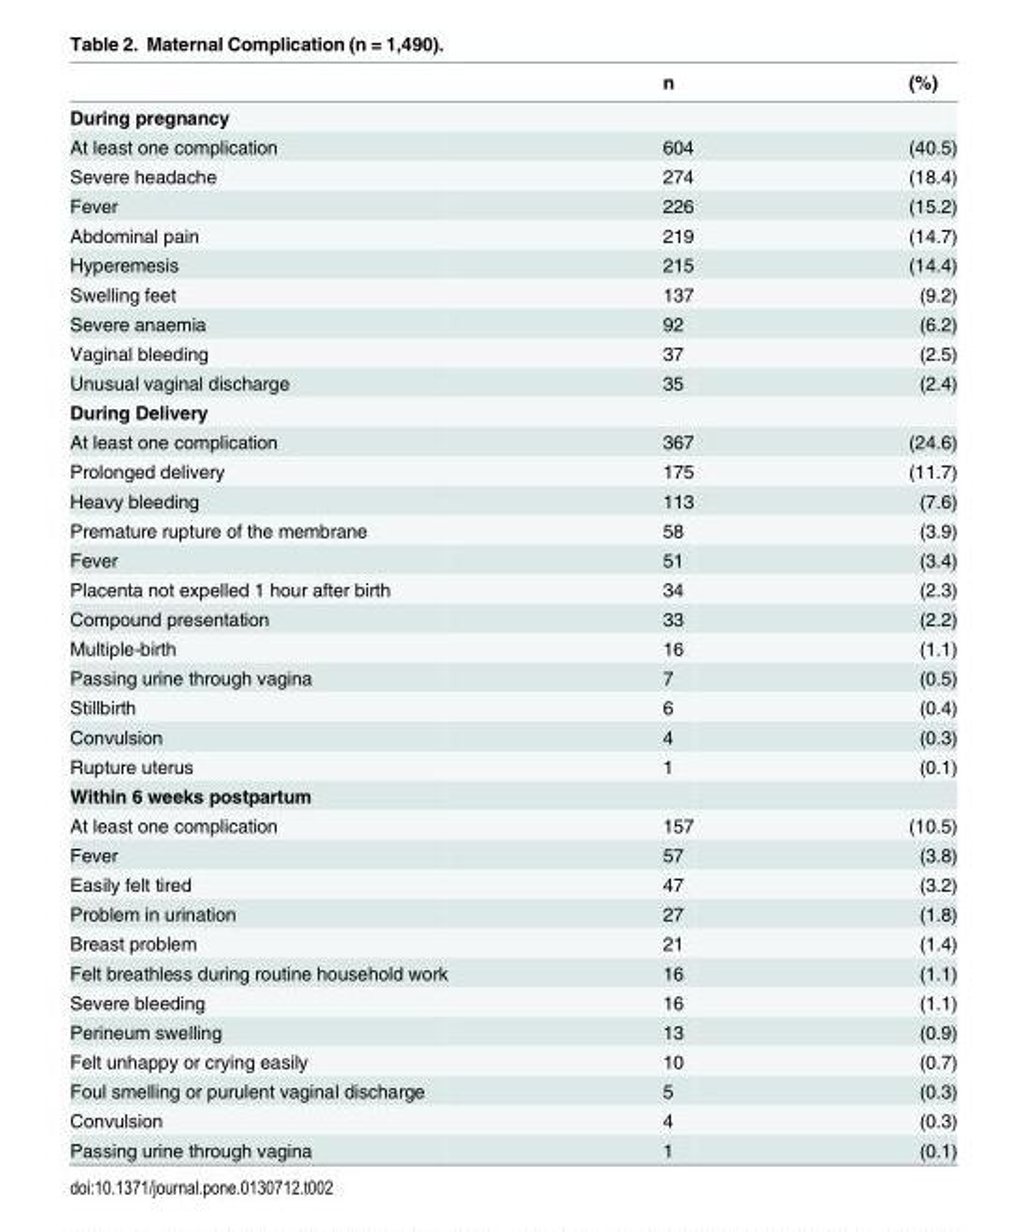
<table><thead><tr><td></td><td>n</td><td>(%)</td></tr></thead><tbody><tr><td colspan="3">During pregnancy</td></tr><tr><td>At least one complication</td><td>604</td><td>(40.5)</td></tr><tr><td>Severe headache</td><td>274</td><td>(18.4)</td></tr><tr><td>Fever</td><td>226</td><td>(15.2)</td></tr><tr><td>Abdominal pain</td><td>219</td><td>(14.7)</td></tr><tr><td>Hyperemesis</td><td>215</td><td>(14.4)</td></tr><tr><td>Swelling feet</td><td>137</td><td>(9.2)</td></tr><tr><td>Severe anaemia</td><td>92</td><td>(6.2)</td></tr><tr><td>Vaginal bleeding</td><td>37</td><td>(2.5)</td></tr><tr><td>Unusual vaginal discharge</td><td>35</td><td>(2.4)</td></tr><tr><td colspan="3">During Delivery</td></tr><tr><td>At least one complication</td><td>367</td><td>(24.6)</td></tr><tr><td>Prolonged delivery</td><td>175</td><td>(11.7)</td></tr><tr><td>Heavy bleeding</td><td>113</td><td>(7.6)</td></tr><tr><td>Premature rupture of the membrane</td><td>58</td><td>(3.9)</td></tr><tr><td>Fever</td><td>51</td><td>(3.4)</td></tr><tr><td>Placenta not expelled 1 hour after birth</td><td>34</td><td>(2.3)</td></tr><tr><td>Compound presentation</td><td>33</td><td>(2.2)</td></tr><tr><td>Multiple-birth</td><td>16</td><td>(1.1)</td></tr><tr><td>Passing urine through vagina</td><td>7</td><td>(0.5)</td></tr><tr><td>Stillbirth</td><td>6</td><td>(0.4)</td></tr><tr><td>Convulsion</td><td>4</td><td>(0.3)</td></tr><tr><td>Rupture uterus</td><td>1</td><td>(0.1)</td></tr><tr><td colspan="3">Within 6 weeks postpartum</td></tr><tr><td>At least one complication</td><td>157</td><td>(10.5)</td></tr><tr><td>Fever</td><td>57</td><td>(3.8)</td></tr><tr><td>Easily felt tired</td><td>47</td><td>(3.2)</td></tr><tr><td>Problem in urination</td><td>27</td><td>(1.8)</td></tr><tr><td>Breast problem</td><td>21</td><td>(1.4)</td></tr><tr><td>Felt breathless during routine household work</td><td>16</td><td>(1.1)</td></tr><tr><td>Severe bleeding</td><td>16</td><td>(1.1)</td></tr><tr><td>Perineum swelling</td><td>13</td><td>(0.9)</td></tr><tr><td>Felt unhappy or crying easily</td><td>10</td><td>(0.7)</td></tr><tr><td>Foul smelling or purulent vaginal discharge</td><td>5</td><td>(0.3)</td></tr><tr><td>Convulsion</td><td>4</td><td>(0.3)</td></tr><tr><td>Passing urine through vagina</td><td>1</td><td>(0.1)</td></tr></tbody></table>